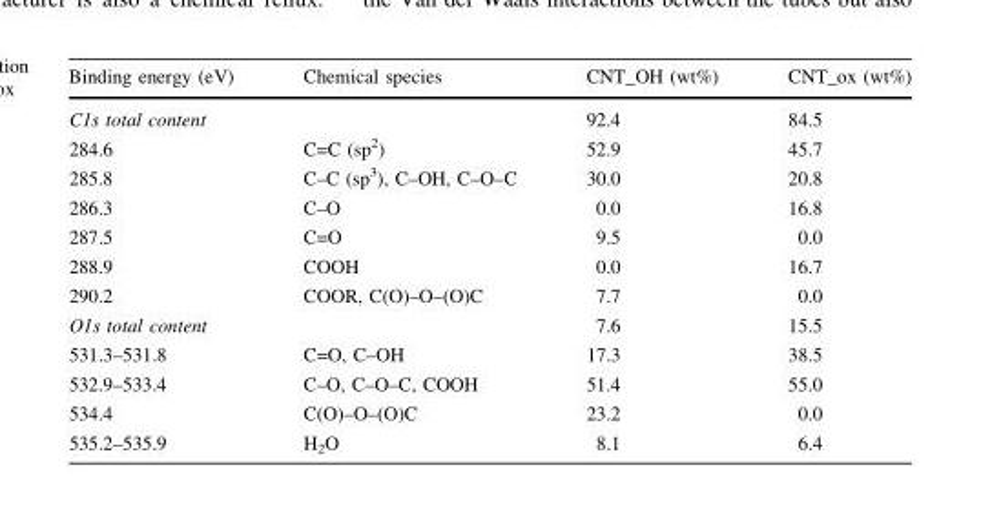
<table><thead><tr><td>Binding energy (eV)</td><td>Chemical species</td><td>CNT_OH (wt%)</td><td>CNT_ox (wt%)</td></tr></thead><tbody><tr><td colspan="2">C1s total content</td><td>92.4</td><td>84.5</td></tr><tr><td>284.6</td><td>C=C (sp<sup>2</sup>)</td><td>52.9</td><td>45.7</td></tr><tr><td>285.8</td><td>C–C (sp<sup>3</sup>), C–OH, C–O–C</td><td>30.0</td><td>20.8</td></tr><tr><td>286.3</td><td>C–O</td><td>0.0</td><td>16.8</td></tr><tr><td>287.5</td><td>C=O</td><td>9.5</td><td>0.0</td></tr><tr><td>288.9</td><td>COOH</td><td>0.0</td><td>16.7</td></tr><tr><td>290.2</td><td>COOR, C(O)–O–(O)C</td><td>7.7</td><td>0.0</td></tr><tr><td colspan="2">O1s total content</td><td>7.6</td><td>15.5</td></tr><tr><td>531.3–531.8</td><td>C=O, C–OH</td><td>17.3</td><td>38.5</td></tr><tr><td>532.9–533.4</td><td>C–O, C–O–C, COOH</td><td>51.4</td><td>55.0</td></tr><tr><td>534.4</td><td>C(O)–O–(O)C</td><td>23.2</td><td>0.0</td></tr><tr><td>535.2–535.9</td><td>H<sub>2</sub>O</td><td>8.1</td><td>6.4</td></tr></tbody></table>